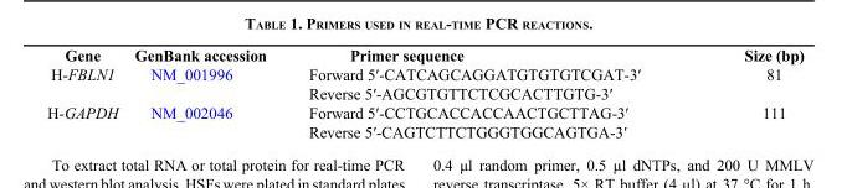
<table><thead><tr><td>Gene</td><td>GenBank accession</td><td>Primer sequence</td><td>Size (bp)</td></tr></thead><tbody><tr><td>H-FBLN1</td><td>NM_001996</td><td>Forward 5′-CATCAGCAGGATGTGTGTCGAT-3′ Reverse 5′-AGCGTGTTCTCGCACTTGTG-3′</td><td>81</td></tr><tr><td>H-GAPDH</td><td>NM_002046</td><td>Forward 5′-CCTGCACCACCAACTGCTTAG-3′ Reverse 5′-CAGTCTTCTGGGTGGCAGTGA-3′</td><td>111</td></tr></tbody></table>